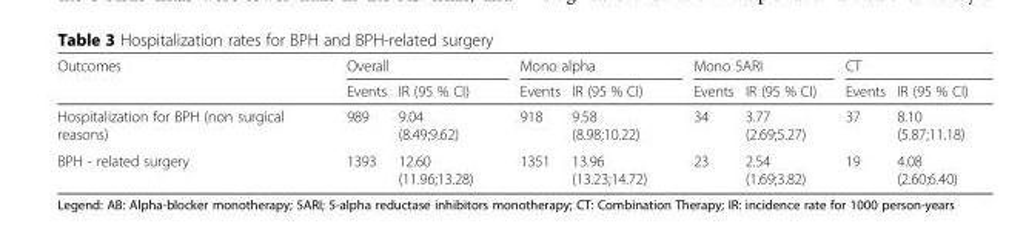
<table><thead><tr><td rowspan="2">Outcomes</td><td colspan="2">Overall</td><td colspan="2">Mono alpha</td><td colspan="2">Mono 5ARI</td><td colspan="2">CT</td></tr><tr><td>Events</td><td>IR (95 % CI)</td><td>Events</td><td>IR (95 % CI)</td><td>Events</td><td>IR (95 % CI)</td><td>Events</td><td>IR (95 % CI)</td></tr></thead><tbody><tr><td>Hospitalization for BPH (non surgical reasons)</td><td>989</td><td>9.04 (8.49;9.62)</td><td>918</td><td>9.58 (8.98;10.22)</td><td>34</td><td>3.77 (2.69;5.27)</td><td>37</td><td>8.10 (5.87;11.18)</td></tr><tr><td>BPH - related surgery</td><td>1393</td><td>12.60 (11.96;13.28)</td><td>1351</td><td>13.96 (13.23;14.72)</td><td>23</td><td>2.54 (1.69;3.82)</td><td>19</td><td>4.08 (2.60;6.40)</td></tr></tbody></table>